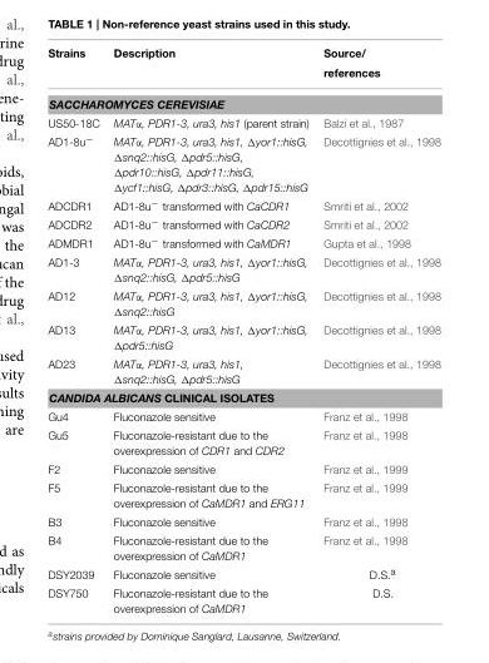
<table><thead><tr><td>Strains</td><td>Description</td><td>Source/ references</td></tr></thead><tbody><tr><td colspan="3">SACCHAROMYCES CEREVISIAE</td></tr><tr><td>US50-18C</td><td>MATα, PDR1-3, ura3, his1 (parent strain)</td><td>Balzi et al., 1987</td></tr><tr><td>AD1-8u<sup>−</sup></td><td>MATα, PDR1-3, ura3, his1, Δyor1::hisG, Δsnq2::hisG, Δpdr5::hisG, Δpdr10::hisG, Δpdr11::hisG, Δycf1::hisG, Δpdr3::hisG, Δpdr15::hisG</td><td>Decottignies et al., 1998</td></tr><tr><td>ADCDR1</td><td>AD1-8u<sup>−</sup> transformed with CaCDR1</td><td>Smriti et al., 2002</td></tr><tr><td>ADCDR2</td><td>AD1-8u<sup>−</sup> transformed with CaCDR2</td><td>Smriti et al., 2002</td></tr><tr><td>ADMDR1</td><td>AD1-8u<sup>−</sup> transformed with CaMDR1</td><td>Gupta et al., 1998</td></tr><tr><td>AD1-3</td><td>MATα, PDR1-3, ura3, his1, Δyor1::hisG, Δsnq2::hisG, Δpdr5::hisG</td><td>Decottignies et al., 1998</td></tr><tr><td>AD12</td><td>MATα, PDR1-3, ura3, his1, Δyor1::hisG, Δsnq2::hisG</td><td>Decottignies et al., 1998</td></tr><tr><td>AD13</td><td>MATα, PDR1-3, ura3, his1, Δyor1::hisG, Δpdr5::hisG</td><td>Decottignies et al., 1998</td></tr><tr><td>AD23</td><td>MATα, PDR1-3, ura3, his1, Δsnq2::hisG, Δpdr5::hisG</td><td>Decottignies et al., 1998</td></tr><tr><td colspan="3">CANDIDA ALBICANS CLINICAL ISOLATES</td></tr><tr><td>Gu4</td><td>Fluconazole sensitive</td><td>Franz et al., 1998</td></tr><tr><td>Gu5</td><td>Fluconazole-resistant due to the overexpression of CDR1 and CDR2</td><td>Franz et al., 1998</td></tr><tr><td>F2</td><td>Fluconazole sensitive</td><td>Franz et al., 1999</td></tr><tr><td>F5</td><td>Fluconazole-resistant due to the overexpression of CaMDR1 and ERG11</td><td>Franz et al., 1999</td></tr><tr><td>B3</td><td>Fluconazole sensitive</td><td>Franz et al., 1998</td></tr><tr><td>B4</td><td>Fluconazole-resistant due to the overexpression of CaMDR1</td><td>Franz et al., 1998</td></tr><tr><td>DSY2039</td><td>Fluconazole sensitive</td><td>D.S.<sup>a</sup></td></tr><tr><td>DSY750</td><td>Fluconazole-resistant due to the overexpression of CaMDR1</td><td>D.S.</td></tr></tbody></table>